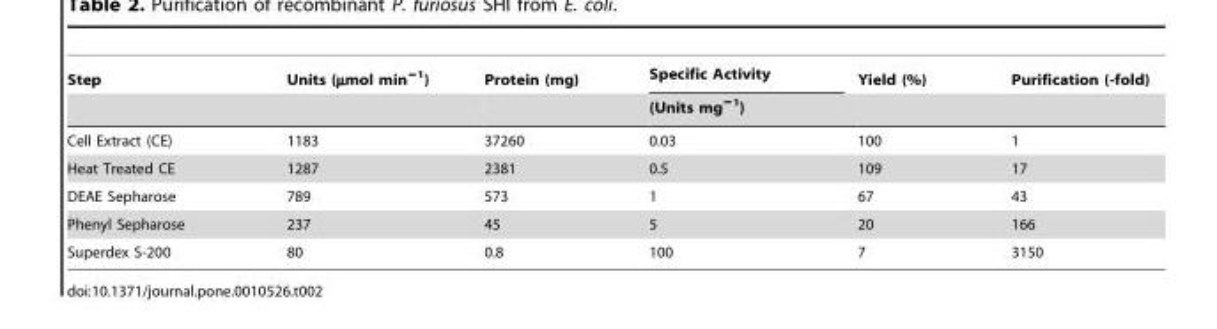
<table><thead><tr><td rowspan="2">Step</td><td rowspan="2">Units (µmol min<sup>−1</sup>)</td><td rowspan="2">Protein (mg)</td><td rowspan="2">Specific Activity (Units mg<sup>−1</sup>)</td><td rowspan="2">Yield (%)</td><td rowspan="2">Purification (-fold)</td></tr><tr></tr></thead><tbody><tr><td>Cell Extract (CE)</td><td>1183</td><td>37260</td><td>0.03</td><td>100</td><td>1</td></tr><tr><td>Heat Treated CE</td><td>1287</td><td>2381</td><td>0.5</td><td>109</td><td>17</td></tr><tr><td>DEAE Sepharose</td><td>789</td><td>573</td><td>1</td><td>67</td><td>43</td></tr><tr><td>Phenyl Sepharose</td><td>237</td><td>45</td><td>5</td><td>20</td><td>166</td></tr><tr><td>Superdex S-200</td><td>80</td><td>0.8</td><td>100</td><td>7</td><td>3150</td></tr></tbody></table>